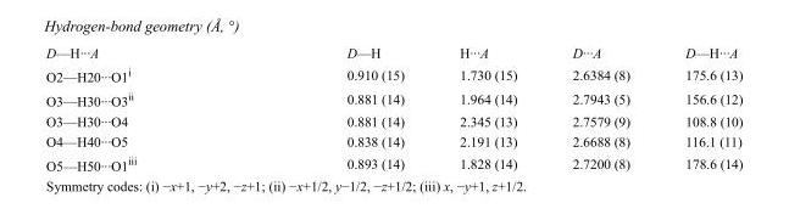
<table><tbody><tr><td>D—H···A</td><td>D—H</td><td>H···A</td><td>D···A</td><td>D—H···A</td></tr><tr><td>O2—H20···O1<sup>i</sup></td><td>0.910 (15)</td><td>1.730 (15)</td><td>2.6384 (8)</td><td>175.6 (13)</td></tr><tr><td>O3—H30···O3<sup>ii</sup></td><td>0.881 (14)</td><td>1.964 (14)</td><td>2.7943 (5)</td><td>156.6 (12)</td></tr><tr><td>O3—H30···O4</td><td>0.881 (14)</td><td>2.345 (13)</td><td>2.7579 (9)</td><td>108.8 (10)</td></tr><tr><td>O4—H40···O5</td><td>0.838 (14)</td><td>2.191 (13)</td><td>2.6688 (8)</td><td>116.1 (11)</td></tr><tr><td>O5—H50···O1<sup>iii</sup></td><td>0.893 (14)</td><td>1.828 (14)</td><td>2.7200 (8)</td><td>178.6 (14)</td></tr></tbody></table>